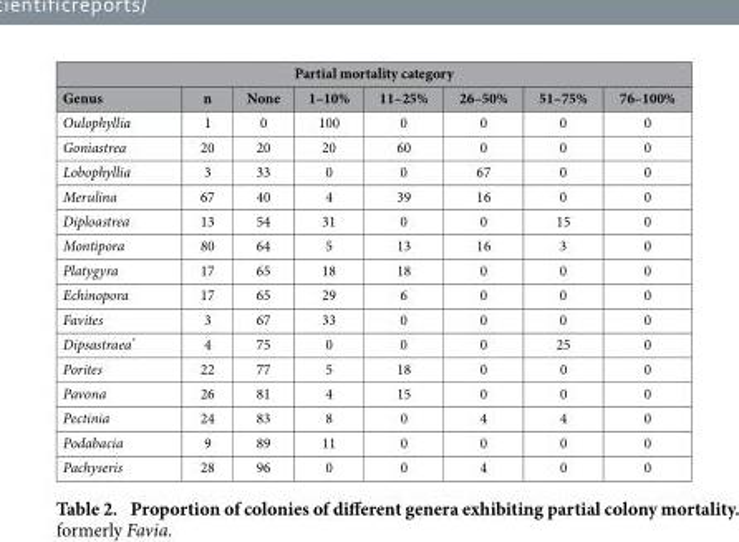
<table><thead><tr><td colspan="8">Partial mortality category</td></tr><tr><td>Genus</td><td>n</td><td>None</td><td>1–10%</td><td>11–25%</td><td>26–50%</td><td>51–75%</td><td>76–100%</td></tr></thead><tbody><tr><td>Oulophyllia</td><td>1</td><td>0</td><td>100</td><td>0</td><td>0</td><td>0</td><td>0</td></tr><tr><td>Goniastrea</td><td>20</td><td>20</td><td>20</td><td>60</td><td>0</td><td>0</td><td>0</td></tr><tr><td>Lobophyllia</td><td>3</td><td>33</td><td>0</td><td>0</td><td>67</td><td>0</td><td>0</td></tr><tr><td>Merulina</td><td>67</td><td>40</td><td>4</td><td>39</td><td>16</td><td>0</td><td>0</td></tr><tr><td>Diploastrea</td><td>13</td><td>54</td><td>31</td><td>0</td><td>0</td><td>15</td><td>0</td></tr><tr><td>Montipora</td><td>80</td><td>64</td><td>5</td><td>13</td><td>16</td><td>3</td><td>0</td></tr><tr><td>Platygyra</td><td>17</td><td>65</td><td>18</td><td>18</td><td>0</td><td>0</td><td>0</td></tr><tr><td>Echinopora</td><td>17</td><td>65</td><td>29</td><td>6</td><td>0</td><td>0</td><td>0</td></tr><tr><td>Favites</td><td>3</td><td>67</td><td>33</td><td>0</td><td>0</td><td>0</td><td>0</td></tr><tr><td>Dipsastraea*</td><td>4</td><td>75</td><td>0</td><td>0</td><td>0</td><td>25</td><td>0</td></tr><tr><td>Porites</td><td>22</td><td>77</td><td>5</td><td>18</td><td>0</td><td>0</td><td>0</td></tr><tr><td>Pavona</td><td>26</td><td>81</td><td>4</td><td>15</td><td>0</td><td>0</td><td>0</td></tr><tr><td>Pectinia</td><td>24</td><td>83</td><td>8</td><td>0</td><td>4</td><td>4</td><td>0</td></tr><tr><td>Podabacia</td><td>9</td><td>89</td><td>11</td><td>0</td><td>0</td><td>0</td><td>0</td></tr><tr><td>Pachyseris</td><td>28</td><td>96</td><td>0</td><td>0</td><td>4</td><td>0</td><td>0</td></tr></tbody></table>